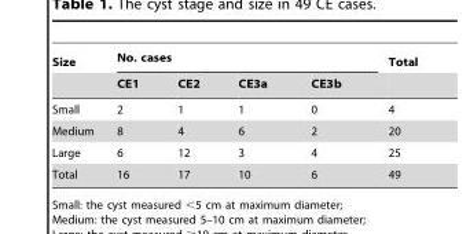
<table><thead><tr><td rowspan="2">Size</td><td colspan="4">No. cases</td><td rowspan="2">Total</td></tr><tr><td>CE1</td><td>CE2</td><td>CE3a</td><td>CE3b</td></tr></thead><tbody><tr><td>Small</td><td>2</td><td>1</td><td>1</td><td>0</td><td>4</td></tr><tr><td>Medium</td><td>8</td><td>4</td><td>6</td><td>2</td><td>20</td></tr><tr><td>Large</td><td>6</td><td>12</td><td>3</td><td>4</td><td>25</td></tr><tr><td>Total</td><td>16</td><td>17</td><td>10</td><td>6</td><td>49</td></tr></tbody></table>